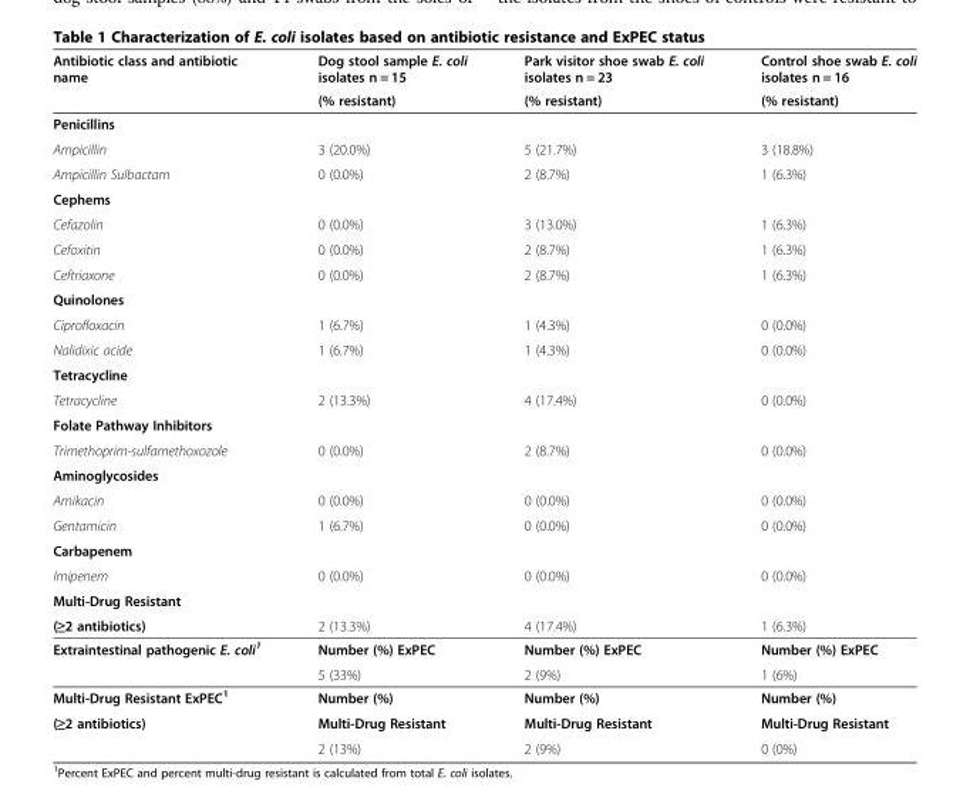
<table><thead><tr><td rowspan="2">Antibiotic class and antibiotic name</td><td rowspan="2">Dog stool sample E. coli isolates n = 15 (% resistant)</td><td rowspan="2">Park visitor shoe swab E. coli isolates n = 23 (% resistant)</td><td rowspan="2">Control shoe swab E. coli isolates n = 16 (% resistant)</td></tr><tr></tr></thead><tbody><tr><td colspan="4">Penicillins</td></tr><tr><td>Ampicillin</td><td>3 (20.0%)</td><td>5 (21.7%)</td><td>3 (18.8%)</td></tr><tr><td>Ampicillin Sulbactam</td><td>0 (0.0%)</td><td>2 (8.7%)</td><td>1 (6.3%)</td></tr><tr><td colspan="4">Cephems</td></tr><tr><td>Cefazolin</td><td>0 (0.0%)</td><td>3 (13.0%)</td><td>1 (6.3%)</td></tr><tr><td>Cefoxitin</td><td>0 (0.0%)</td><td>2 (8.7%)</td><td>1 (6.3%)</td></tr><tr><td>Ceftriaxone</td><td>0 (0.0%)</td><td>2 (8.7%)</td><td>1 (6.3%)</td></tr><tr><td colspan="4">Quinolones</td></tr><tr><td>Ciprofloxacin</td><td>1 (6.7%)</td><td>1 (4.3%)</td><td>0 (0.0%)</td></tr><tr><td>Nalidixic acide</td><td>1 (6.7%)</td><td>1 (4.3%)</td><td>0 (0.0%)</td></tr><tr><td colspan="4">Tetracycline</td></tr><tr><td>Tetracycline</td><td>2 (13.3%)</td><td>4 (17.4%)</td><td>0 (0.0%)</td></tr><tr><td colspan="4">Folate Pathway Inhibitors</td></tr><tr><td>Trimethoprim-sulfamethoxozole</td><td>0 (0.0%)</td><td>2 (8.7%)</td><td>0 (0.0%)</td></tr><tr><td colspan="4">Aminoglycosides</td></tr><tr><td>Amikacin</td><td>0 (0.0%)</td><td>0 (0.0%)</td><td>0 (0.0%)</td></tr><tr><td>Gentamicin</td><td>1 (6.7%)</td><td>0 (0.0%)</td><td>0 (0.0%)</td></tr><tr><td colspan="4">Carbapenem</td></tr><tr><td>Imipenem</td><td>0 (0.0%)</td><td>0 (0.0%)</td><td>0 (0.0%)</td></tr><tr><td colspan="4">Multi-Drug Resistant</td></tr><tr><td>(≥2 antibiotics)</td><td>2 (13.3%)</td><td>4 (17.4%)</td><td>1 (6.3%)</td></tr><tr><td rowspan="2">Extraintestinal pathogenic E. coli<sup>1</sup></td><td>Number (%) ExPEC</td><td>Number (%) ExPEC</td><td>Number (%) ExPEC</td></tr><tr><td>5 (33%)</td><td>2 (9%)</td><td>1 (6%)</td></tr><tr><td>Multi-Drug Resistant ExPEC<sup>1</sup></td><td>Number (%)</td><td>Number (%)</td><td>Number (%)</td></tr><tr><td rowspan="2">(≥2 antibiotics)</td><td>Multi-Drug Resistant</td><td>Multi-Drug Resistant</td><td>Multi-Drug Resistant</td></tr><tr><td>2 (13%)</td><td>2 (9%)</td><td>0 (0%)</td></tr></tbody></table>